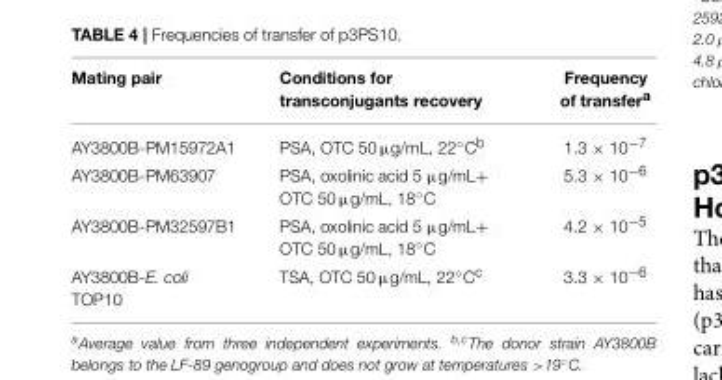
<table><thead><tr><td>Mating pair</td><td>Conditions for transconjugants recovery</td><td>Frequency of transfer<sup>a</sup></td></tr></thead><tbody><tr><td>AY3800B-PM15972A1</td><td>PSA, OTC 50 µg/mL, 22◦Cb</td><td>1.3 × 10<sup>−7</sup></td></tr><tr><td>AY3800B-PM63907</td><td>PSA, oxolinic acid 5 µg/mL+ OTC 50 µg/mL, 18◦C</td><td>5.3 × 10<sup>−6</sup></td></tr><tr><td>AY3800B-PM32597B1</td><td>PSA, oxolinic acid 5 µg/mL+ OTC 50 µg/mL, 18◦C</td><td>4.2 × 10<sup>−5</sup></td></tr><tr><td>AY3800B-E. coli TOP10</td><td>TSA, OTC 50 µg/mL, 22◦Cc</td><td>3.3 × 10<sup>−6</sup></td></tr></tbody></table>